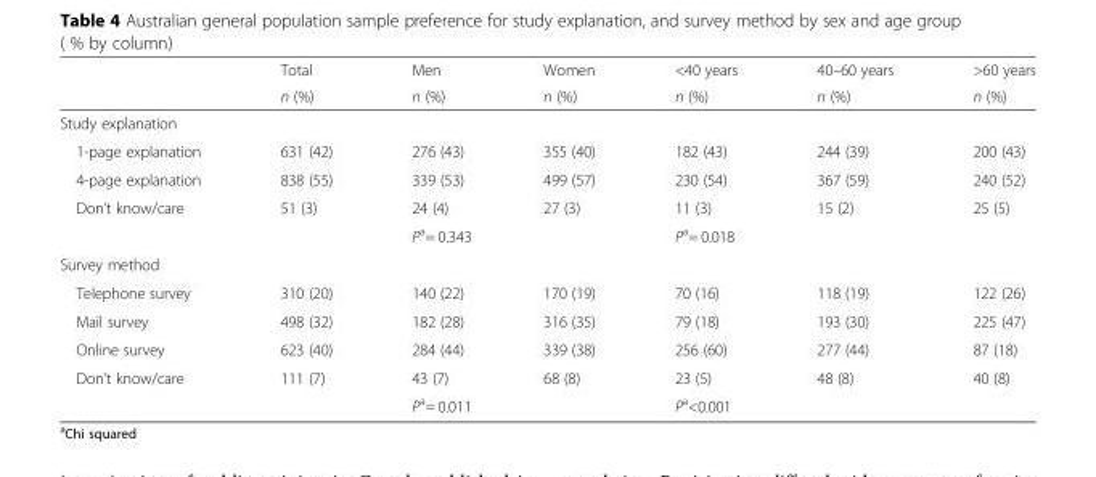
<table><thead><tr><td rowspan="2"></td><td rowspan="2">Total n (%)</td><td rowspan="2">Men n (%)</td><td rowspan="2">Women n (%)</td><td rowspan="2">&lt;40 years n (%)</td><td rowspan="2">40–60 years n (%)</td><td rowspan="2">&gt;60 years n (%)</td></tr><tr></tr></thead><tbody><tr><td colspan="7">Study explanation</td></tr><tr><td>1-page explanation</td><td>631 (42)</td><td>276 (43)</td><td>355 (40)</td><td>182 (43)</td><td>244 (39)</td><td>200 (43)</td></tr><tr><td>4-page explanation</td><td>838 (55)</td><td>339 (53)</td><td>499 (57)</td><td>230 (54)</td><td>367 (59)</td><td>240 (52)</td></tr><tr><td rowspan="2">Don’t know/care</td><td>51 (3)</td><td>24 (4)</td><td>27 (3)</td><td>11 (3)</td><td>15 (2)</td><td>25 (5)</td></tr><tr><td></td><td colspan="2">P<sup>a</sup>= 0.343</td><td colspan="3">P<sup>a</sup>= 0.018</td></tr><tr><td colspan="7">Survey method</td></tr><tr><td>Telephone survey</td><td>310 (20)</td><td>140 (22)</td><td>170 (19)</td><td>70 (16)</td><td>118 (19)</td><td>122 (26)</td></tr><tr><td>Mail survey</td><td>498 (32)</td><td>182 (28)</td><td>316 (35)</td><td>79 (18)</td><td>193 (30)</td><td>225 (47)</td></tr><tr><td>Online survey</td><td>623 (40)</td><td>284 (44)</td><td>339 (38)</td><td>256 (60)</td><td>277 (44)</td><td>87 (18)</td></tr><tr><td rowspan="2">Don’t know/care</td><td>111 (7)</td><td>43 (7)</td><td>68 (8)</td><td>23 (5)</td><td>48 (8)</td><td>40 (8)</td></tr><tr><td></td><td colspan="2">P<sup>a</sup>= 0.011</td><td colspan="3">P<sup>a</sup>&lt;0.001</td></tr></tbody></table>